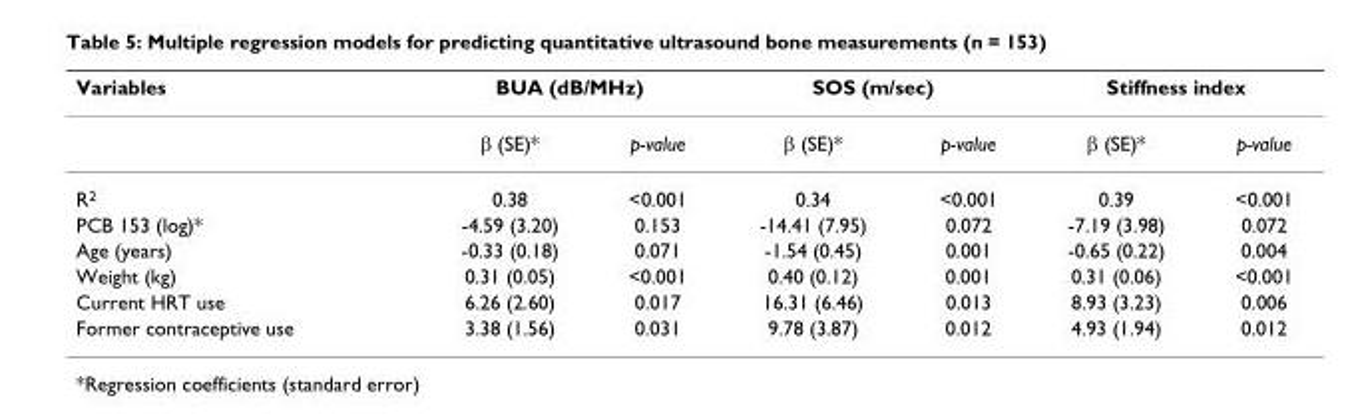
<table><thead><tr><td rowspan="2">Variables</td><td colspan="2">BUA (dB/MHz)</td><td colspan="2">SOS (m/sec)</td><td colspan="2">Stiffness index</td></tr><tr><td>β (SE)*</td><td>p-value</td><td>β (SE)*</td><td>p-value</td><td>β (SE)*</td><td>p-value</td></tr></thead><tbody><tr><td>R<sup>2</sup></td><td>0.38</td><td>&lt;0.001</td><td>0.34</td><td>&lt;0.001</td><td>0.39</td><td>&lt;0.001</td></tr><tr><td>PCB 153 (log)*</td><td>-4.59 (3.20)</td><td>0.153</td><td>-14.41 (7.95)</td><td>0.072</td><td>-7.19 (3.98)</td><td>0.072</td></tr><tr><td>Age (years)</td><td>-0.33 (0.18)</td><td>0.071</td><td>-1.54 (0.45)</td><td>0.001</td><td>-0.65 (0.22)</td><td>0.004</td></tr><tr><td>Weight (kg)</td><td>0.31 (0.05)</td><td>&lt;0.001</td><td>0.40 (0.12)</td><td>0.001</td><td>0.31 (0.06)</td><td>&lt;0.001</td></tr><tr><td>Current HRT use</td><td>6.26 (2.60)</td><td>0.017</td><td>16.31 (6.46)</td><td>0.013</td><td>8.93 (3.23)</td><td>0.006</td></tr><tr><td>Former contraceptive use</td><td>3.38 (1.56)</td><td>0.031</td><td>9.78 (3.87)</td><td>0.012</td><td>4.93 (1.94)</td><td>0.012</td></tr></tbody></table>